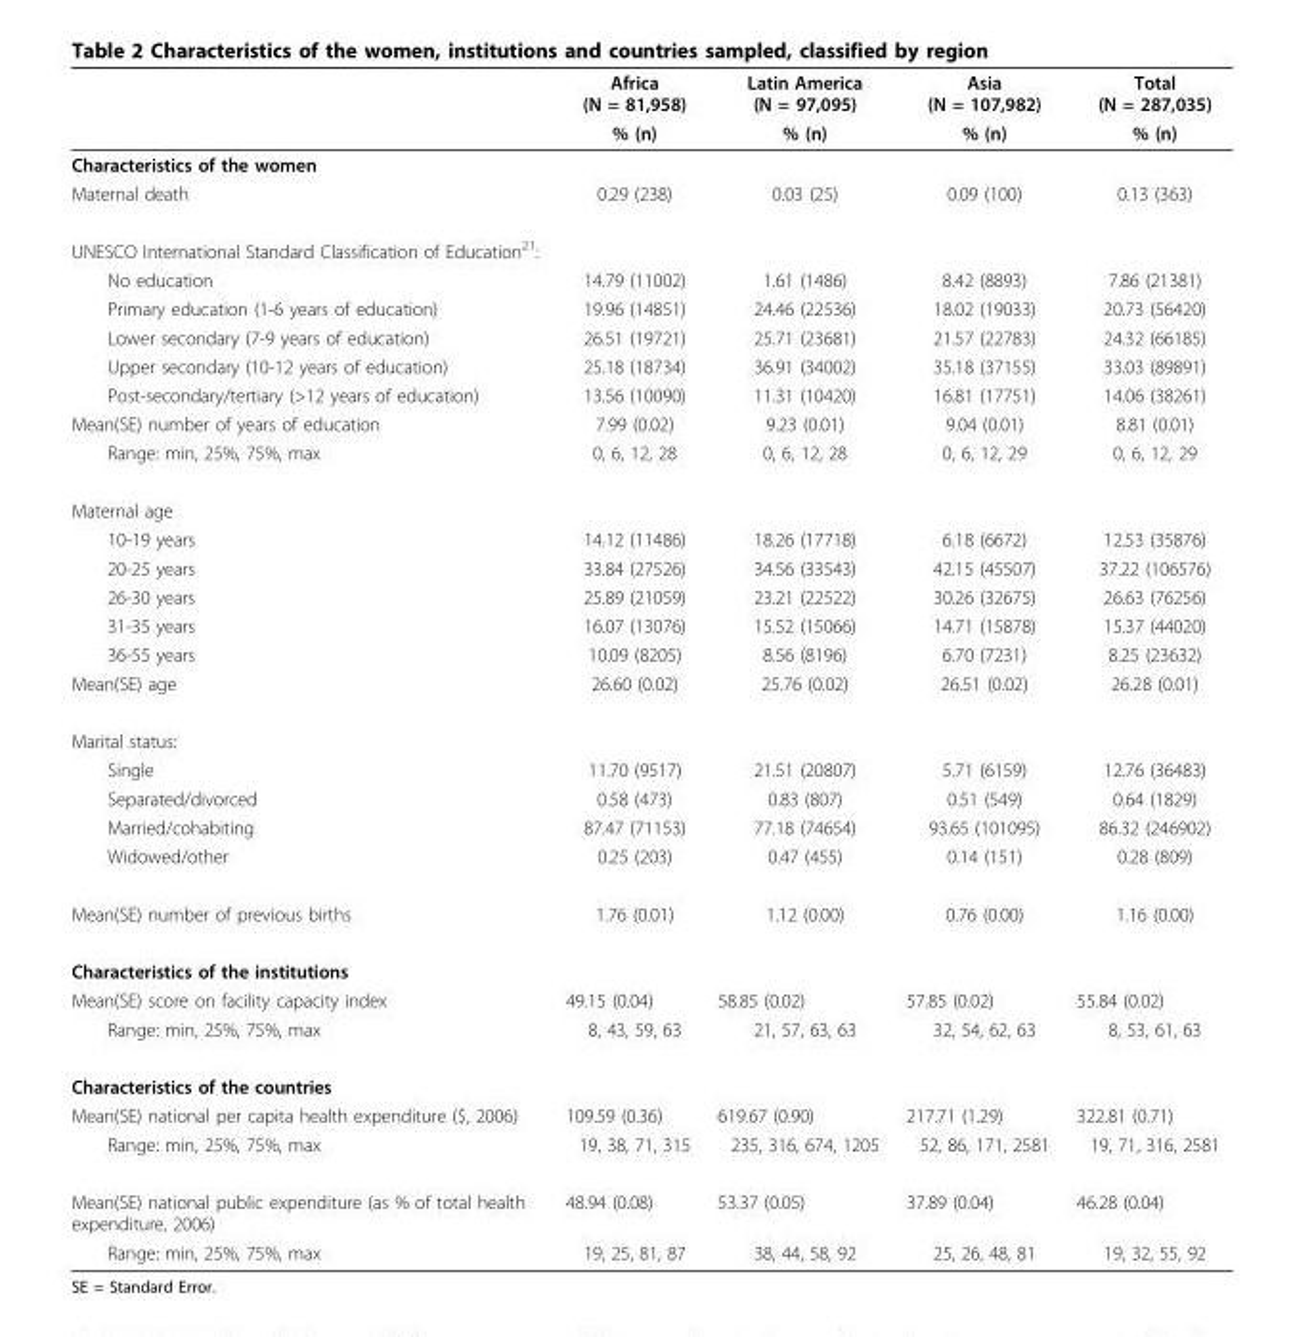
<table><thead><tr><td rowspan="2"></td><td rowspan="2">Africa (N = 81,958) % (n)</td><td rowspan="2">Latin America (N = 97,095) % (n)</td><td rowspan="2">Asia (N = 107,982) % (n)</td><td rowspan="2">Total (N = 287,035) % (n)</td></tr><tr></tr></thead><tbody><tr><td colspan="5">Characteristics of the women</td></tr><tr><td>Maternal death</td><td>0.29 (238)</td><td>0.03 (25)</td><td>0.09 (100)</td><td>0.13 (363)</td></tr><tr><td colspan="5">UNESCO International Standard Classification of Education<sup>21</sup>:</td></tr><tr><td>No education</td><td>14.79 (11002)</td><td>1.61 (1486)</td><td>8.42 (8893)</td><td>7.86 (21381)</td></tr><tr><td>Primary education (1-6 years of education)</td><td>19.96 (14851)</td><td>24.46 (22536)</td><td>18.02 (19033)</td><td>20.73 (56420)</td></tr><tr><td>Lower secondary (7-9 years of education)</td><td>26.51 (19721)</td><td>25.71 (23681)</td><td>21.57 (22783)</td><td>24.32 (66185)</td></tr><tr><td>Upper secondary (10-12 years of education)</td><td>25.18 (18734)</td><td>36.91 (34002)</td><td>35.18 (37155)</td><td>33.03 (89891)</td></tr><tr><td>Post-secondary/tertiary (&gt;12 years of education)</td><td>13.56 (10090)</td><td>11.31 (10420)</td><td>16.81 (17751)</td><td>14.06 (38261)</td></tr><tr><td>Mean(SE) number of years of education</td><td>7.99 (0.02)</td><td>9.23 (0.01)</td><td>9.04 (0.01)</td><td>8.81 (0.01)</td></tr><tr><td>Range: min, 25%, 75%, max</td><td>0, 6, 12, 28</td><td>0, 6, 12, 28</td><td>0, 6, 12, 29</td><td>0, 6, 12, 29</td></tr><tr><td colspan="5">Maternal age</td></tr><tr><td>10-19 years</td><td>14.12 (11486)</td><td>18.26 (17718)</td><td>6.18 (6672)</td><td>12.53 (35876)</td></tr><tr><td>20-25 years</td><td>33.84 (27526)</td><td>34.56 (33543)</td><td>42.15 (45507)</td><td>37.22 (106576)</td></tr><tr><td>26-30 years</td><td>25.89 (21059)</td><td>23.21 (22522)</td><td>30.26 (32675)</td><td>26.63 (76256)</td></tr><tr><td>31-35 years</td><td>16.07 (13076)</td><td>15.52 (15066)</td><td>14.71 (15878)</td><td>15.37 (44020)</td></tr><tr><td>36-55 years</td><td>10.09 (8205)</td><td>8.56 (8196)</td><td>6.70 (7231)</td><td>8.25 (23632)</td></tr><tr><td>Mean(SE) age</td><td>26.60 (0.02)</td><td>25.76 (0.02)</td><td>26.51 (0.02)</td><td>26.28 (0.01)</td></tr><tr><td colspan="5">Marital status:</td></tr><tr><td>Single</td><td>11.70 (9517)</td><td>21.51 (20807)</td><td>5.71 (6159)</td><td>12.76 (36483)</td></tr><tr><td>Separated/divorced</td><td>0.58 (473)</td><td>0.83 (807)</td><td>0.51 (549)</td><td>0.64 (1829)</td></tr><tr><td>Married/cohabiting</td><td>87.47 (71153)</td><td>77.18 (74654)</td><td>93.65 (101095)</td><td>86.32 (246902)</td></tr><tr><td>Widowed/other</td><td>0.25 (203)</td><td>0.47 (455)</td><td>0.14 (151)</td><td>0.28 (809)</td></tr><tr><td>Mean(SE) number of previous births</td><td>1.76 (0.01)</td><td>1.12 (0.00)</td><td>0.76 (0.00)</td><td>1.16 (0.00)</td></tr><tr><td colspan="5">Characteristics of the institutions</td></tr><tr><td>Mean(SE) score on facility capacity index</td><td>49.15 (0.04)</td><td>58.85 (0.02)</td><td>57.85 (0.02)</td><td>55.84 (0.02)</td></tr><tr><td>Range: min, 25%, 75%, max</td><td>8, 43, 59, 63</td><td>21, 57, 63, 63</td><td>32, 54, 62, 63</td><td>8, 53, 61, 63</td></tr><tr><td colspan="5">Characteristics of the countries</td></tr><tr><td>Mean(SE) national per capita health expenditure ($, 2006)</td><td>109.59 (0.36)</td><td>619.67 (0.90)</td><td>217.71 (1.29)</td><td>322.81 (0.71)</td></tr><tr><td>Range: min, 25%, 75%, max</td><td>19, 38, 71, 315</td><td>235, 316, 674, 1205</td><td>52, 86, 171, 2581</td><td>19, 71, 316, 2581</td></tr><tr><td>Mean(SE) national public expenditure (as % of total health expenditure, 2006)</td><td>48.94 (0.08)</td><td>53.37 (0.05)</td><td>37.89 (0.04)</td><td>46.28 (0.04)</td></tr><tr><td>Range: min, 25%, 75%, max</td><td>19, 25, 81, 87</td><td>38, 44, 58, 92</td><td>25, 26, 48, 81</td><td>19, 32, 55, 92</td></tr></tbody></table>